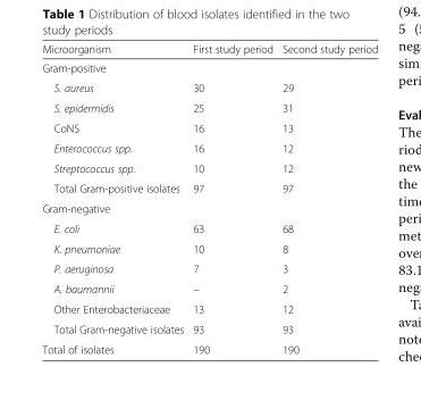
<table><thead><tr><td>Microorganism</td><td>First study period</td><td>Second study period</td></tr></thead><tbody><tr><td colspan="3">Gram-positive</td></tr><tr><td>S. aureus</td><td>30</td><td>29</td></tr><tr><td>S. epidermidis</td><td>25</td><td>31</td></tr><tr><td>CoNS</td><td>16</td><td>13</td></tr><tr><td>Enterococcus spp.</td><td>16</td><td>12</td></tr><tr><td>Streptococcus spp.</td><td>10</td><td>12</td></tr><tr><td>Total Gram-positive isolates</td><td>97</td><td>97</td></tr><tr><td colspan="3">Gram-negative</td></tr><tr><td>E. coli</td><td>63</td><td>68</td></tr><tr><td>K. pneumoniae</td><td>10</td><td>8</td></tr><tr><td>P. aeruginosa</td><td>7</td><td>3</td></tr><tr><td>A. baumannii</td><td>–</td><td>2</td></tr><tr><td>Other Enterobacteriaceae</td><td>13</td><td>12</td></tr><tr><td>Total Gram-negative isolates</td><td>93</td><td>93</td></tr><tr><td>Total of isolates</td><td>190</td><td>190</td></tr></tbody></table>